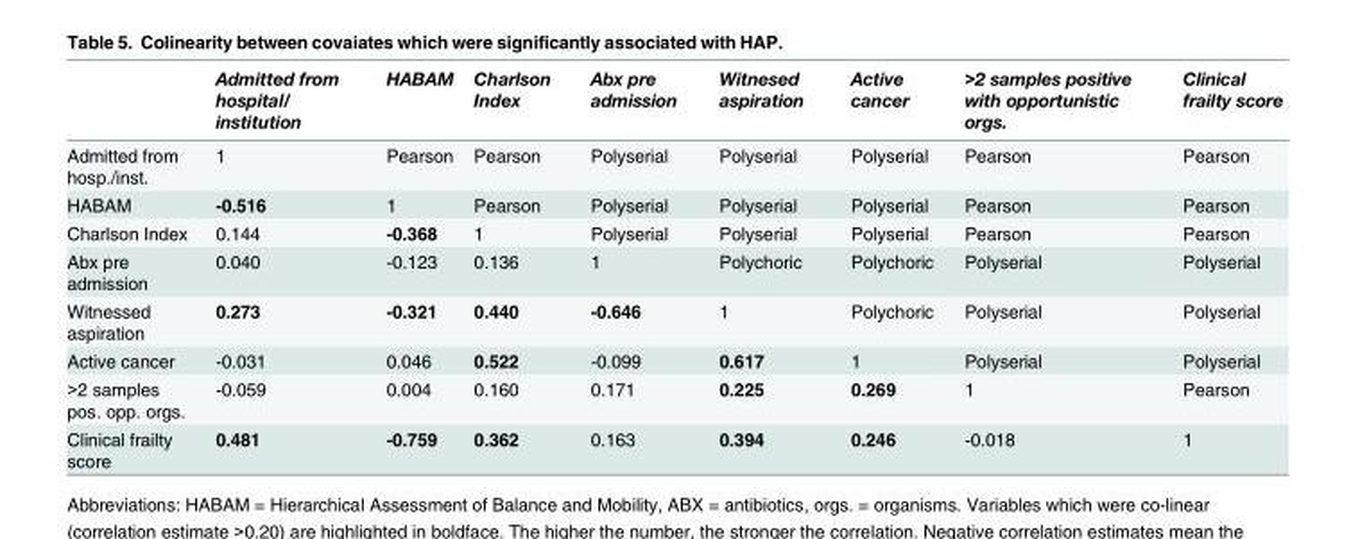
<table><thead><tr><td></td><td>Admitted from hospital/ institution</td><td>HABAM</td><td>Charlson Index</td><td>Abx pre admission</td><td>Witnesed aspiration</td><td>Active cancer</td><td>&gt;2 samples positive with opportunistic orgs.</td><td>Clinical frailty score</td></tr></thead><tbody><tr><td>Admitted from hosp./inst.</td><td>1</td><td>Pearson</td><td>Pearson</td><td>Polyserial</td><td>Polyserial</td><td>Polyserial</td><td>Pearson</td><td>Pearson</td></tr><tr><td>HABAM</td><td>-0.516</td><td>1</td><td>Pearson</td><td>Polyserial</td><td>Polyserial</td><td>Polyserial</td><td>Pearson</td><td>Pearson</td></tr><tr><td>Charlson Index</td><td>0.144</td><td>-0.368</td><td>1</td><td>Polyserial</td><td>Polyserial</td><td>Polyserial</td><td>Pearson</td><td>Pearson</td></tr><tr><td>Abx pre admission</td><td>0.040</td><td>-0.123</td><td>0.136</td><td>1</td><td>Polychoric</td><td>Polychoric</td><td>Polyserial</td><td>Polyserial</td></tr><tr><td>Witnessed aspiration</td><td>0.273</td><td>-0.321</td><td>0.440</td><td>-0.646</td><td>1</td><td>Polychoric</td><td>Polyserial</td><td>Polyserial</td></tr><tr><td>Active cancer</td><td>-0.031</td><td>0.046</td><td>0.522</td><td>-0.099</td><td>0.617</td><td>1</td><td>Polyserial</td><td>Polyserial</td></tr><tr><td>&gt;2 samples pos. opp. orgs.</td><td>-0.059</td><td>0.004</td><td>0.160</td><td>0.171</td><td>0.225</td><td>0.269</td><td>1</td><td>Pearson</td></tr><tr><td>Clinical frailty score</td><td>0.481</td><td>-0.759</td><td>0.362</td><td>0.163</td><td>0.394</td><td>0.246</td><td>-0.018</td><td>1</td></tr></tbody></table>